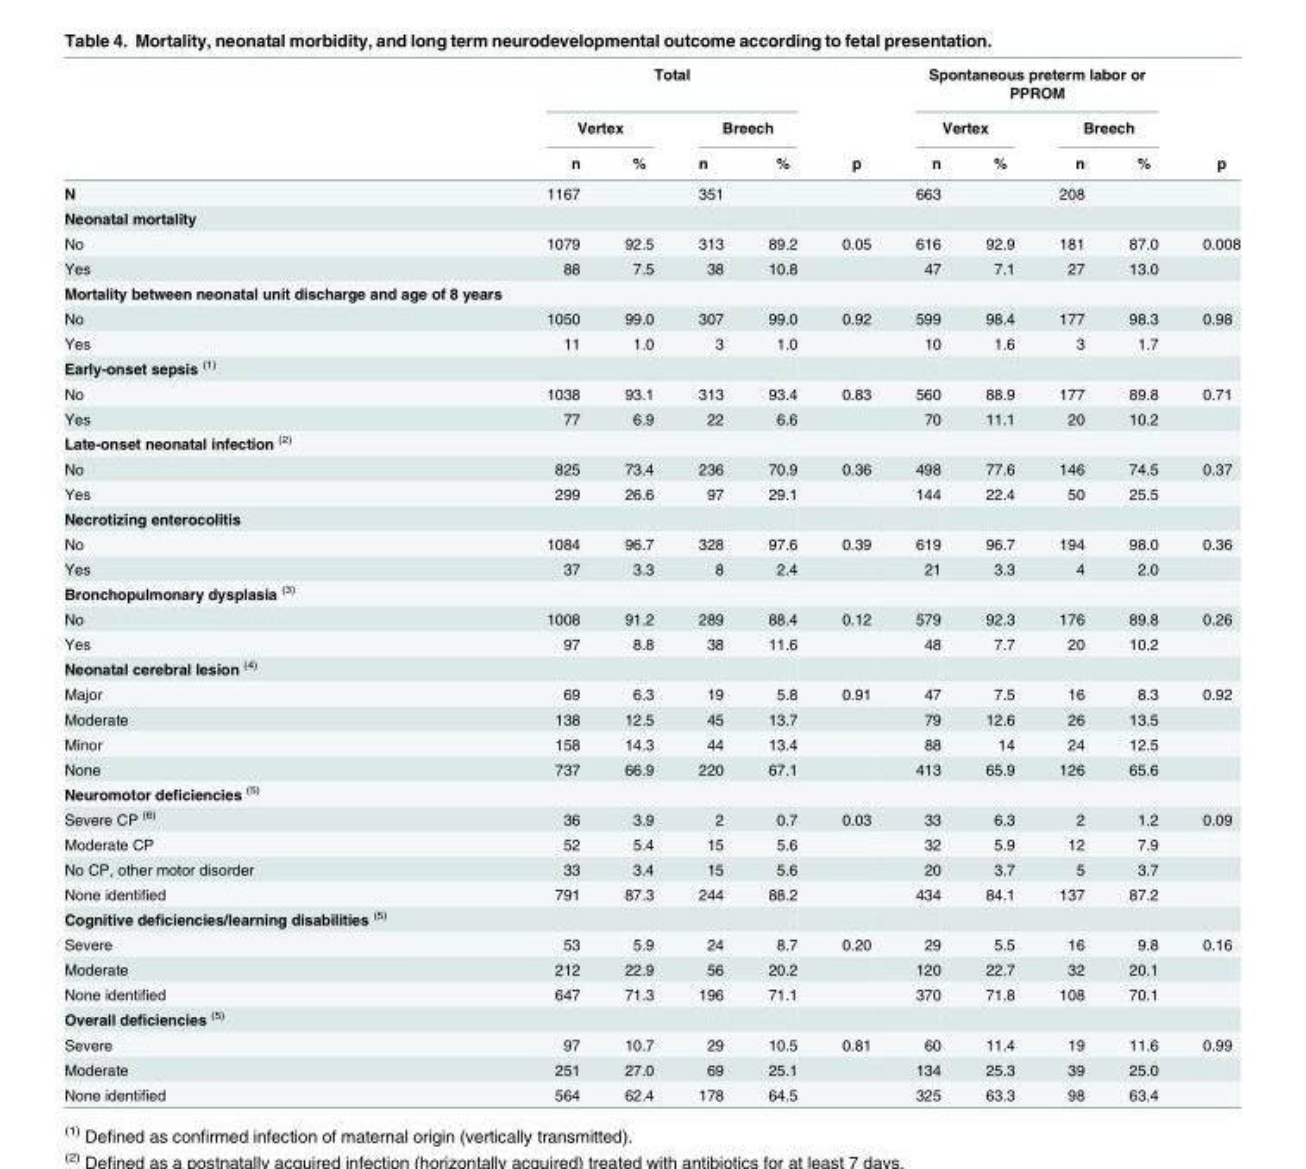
<table><thead><tr><td rowspan="3"></td><td colspan="4">Total</td><td rowspan="3">p</td><td colspan="4">Spontaneous preterm labor or PPROM</td><td rowspan="3">p</td></tr><tr><td colspan="2">Vertex</td><td colspan="2">Breech</td><td colspan="2">Vertex</td><td colspan="2">Breech</td></tr><tr><td>n</td><td>%</td><td>n</td><td>%</td><td>n</td><td>%</td><td>n</td><td>%</td></tr></thead><tbody><tr><td>N</td><td>1167</td><td></td><td>351</td><td></td><td></td><td>663</td><td></td><td>208</td><td></td><td></td></tr><tr><td colspan="11">Neonatal mortality</td></tr><tr><td>No</td><td>1079</td><td>92.5</td><td>313</td><td>89.2</td><td>0.05</td><td>616</td><td>92.9</td><td>181</td><td>87.0</td><td>0.008</td></tr><tr><td>Yes</td><td>88</td><td>7.5</td><td>38</td><td>10.8</td><td></td><td>47</td><td>7.1</td><td>27</td><td>13.0</td><td></td></tr><tr><td colspan="11">Mortality between neonatal unit discharge and age of 8 years</td></tr><tr><td>No</td><td>1050</td><td>99.0</td><td>307</td><td>99.0</td><td>0.92</td><td>599</td><td>98.4</td><td>177</td><td>98.3</td><td>0.98</td></tr><tr><td>Yes</td><td>11</td><td>1.0</td><td>3</td><td>1.0</td><td></td><td>10</td><td>1.6</td><td>3</td><td>1.7</td><td></td></tr><tr><td colspan="11">Early-onset sepsis <sup>(1)</sup></td></tr><tr><td>No</td><td>1038</td><td>93.1</td><td>313</td><td>93.4</td><td>0.83</td><td>560</td><td>88.9</td><td>177</td><td>89.8</td><td>0.71</td></tr><tr><td>Yes</td><td>77</td><td>6.9</td><td>22</td><td>6.6</td><td></td><td>70</td><td>11.1</td><td>20</td><td>10.2</td><td></td></tr><tr><td colspan="11">Late-onset neonatal infection <sup>(2)</sup></td></tr><tr><td>No</td><td>825</td><td>73.4</td><td>236</td><td>70.9</td><td>0.36</td><td>498</td><td>77.6</td><td>146</td><td>74.5</td><td>0.37</td></tr><tr><td>Yes</td><td>299</td><td>26.6</td><td>97</td><td>29.1</td><td></td><td>144</td><td>22.4</td><td>50</td><td>25.5</td><td></td></tr><tr><td colspan="11">Necrotizing enterocolitis</td></tr><tr><td>No</td><td>1084</td><td>96.7</td><td>328</td><td>97.6</td><td>0.39</td><td>619</td><td>96.7</td><td>194</td><td>98.0</td><td>0.36</td></tr><tr><td>Yes</td><td>37</td><td>3.3</td><td>8</td><td>2.4</td><td></td><td>21</td><td>3.3</td><td>4</td><td>2.0</td><td></td></tr><tr><td colspan="11">Bronchopulmonary dysplasia <sup>(3)</sup></td></tr><tr><td>No</td><td>1008</td><td>91.2</td><td>289</td><td>88.4</td><td>0.12</td><td>579</td><td>92.3</td><td>176</td><td>89.8</td><td>0.26</td></tr><tr><td>Yes</td><td>97</td><td>8.8</td><td>38</td><td>11.6</td><td></td><td>48</td><td>7.7</td><td>20</td><td>10.2</td><td></td></tr><tr><td colspan="11">Neonatal cerebral lesion <sup>(4)</sup></td></tr><tr><td>Major</td><td>69</td><td>6.3</td><td>19</td><td>5.8</td><td>0.91</td><td>47</td><td>7.5</td><td>16</td><td>8.3</td><td>0.92</td></tr><tr><td>Moderate</td><td>138</td><td>12.5</td><td>45</td><td>13.7</td><td></td><td>79</td><td>12.6</td><td>26</td><td>13.5</td><td></td></tr><tr><td>Minor</td><td>158</td><td>14.3</td><td>44</td><td>13.4</td><td></td><td>88</td><td>14</td><td>24</td><td>12.5</td><td></td></tr><tr><td>None</td><td>737</td><td>66.9</td><td>220</td><td>67.1</td><td></td><td>413</td><td>65.9</td><td>126</td><td>65.6</td><td></td></tr><tr><td colspan="11">Neuromotor deficiencies <sup>(5)</sup></td></tr><tr><td>Severe CP <sup>(6)</sup></td><td>36</td><td>3.9</td><td>2</td><td>0.7</td><td>0.03</td><td>33</td><td>6.3</td><td>2</td><td>1.2</td><td>0.09</td></tr><tr><td>Moderate CP</td><td>52</td><td>5.4</td><td>15</td><td>5.6</td><td></td><td>32</td><td>5.9</td><td>12</td><td>7.9</td><td></td></tr><tr><td>No CP, other motor disorder</td><td>33</td><td>3.4</td><td>15</td><td>5.6</td><td></td><td>20</td><td>3.7</td><td>5</td><td>3.7</td><td></td></tr><tr><td>None identified</td><td>791</td><td>87.3</td><td>244</td><td>88.2</td><td></td><td>434</td><td>84.1</td><td>137</td><td>87.2</td><td></td></tr><tr><td colspan="11">Cognitive deficiencies/learning disabilities <sup>(5)</sup></td></tr><tr><td>Severe</td><td>53</td><td>5.9</td><td>24</td><td>8.7</td><td>0.20</td><td>29</td><td>5.5</td><td>16</td><td>9.8</td><td>0.16</td></tr><tr><td>Moderate</td><td>212</td><td>22.9</td><td>56</td><td>20.2</td><td></td><td>120</td><td>22.7</td><td>32</td><td>20.1</td><td></td></tr><tr><td>None identified</td><td>647</td><td>71.3</td><td>196</td><td>71.1</td><td></td><td>370</td><td>71.8</td><td>108</td><td>70.1</td><td></td></tr><tr><td colspan="11">Overall deficiencies <sup>(5)</sup></td></tr><tr><td>Severe</td><td>97</td><td>10.7</td><td>29</td><td>10.5</td><td>0.81</td><td>60</td><td>11.4</td><td>19</td><td>11.6</td><td>0.99</td></tr><tr><td>Moderate</td><td>251</td><td>27.0</td><td>69</td><td>25.1</td><td></td><td>134</td><td>25.3</td><td>39</td><td>25.0</td><td></td></tr><tr><td>None identified</td><td>564</td><td>62.4</td><td>178</td><td>64.5</td><td></td><td>325</td><td>63.3</td><td>98</td><td>63.4</td><td></td></tr></tbody></table>